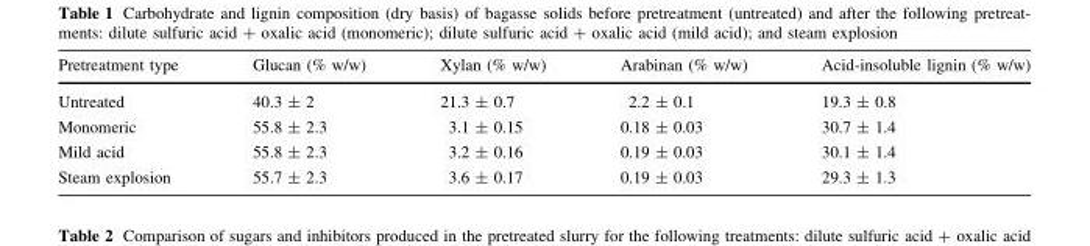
<table><thead><tr><td>Pretreatment type</td><td>Glucan (% w/w)</td><td>Xylan (% w/w)</td><td>Arabinan (% w/w)</td><td>Acid-insoluble lignin (% w/w)</td></tr></thead><tbody><tr><td>Untreated</td><td>40.3 ± 2</td><td>21.3 ± 0.7</td><td>2.2 ± 0.1</td><td>19.3 ± 0.8</td></tr><tr><td>Monomeric</td><td>55.8 ± 2.3</td><td>3.1 ± 0.15</td><td>0.18 ± 0.03</td><td>30.7 ± 1.4</td></tr><tr><td>Mild acid</td><td>55.8 ± 2.3</td><td>3.2 ± 0.16</td><td>0.19 ± 0.03</td><td>30.1 ± 1.4</td></tr><tr><td>Steam explosion</td><td>55.7 ± 2.3</td><td>3.6 ± 0.17</td><td>0.19 ± 0.03</td><td>29.3 ± 1.3</td></tr></tbody></table>